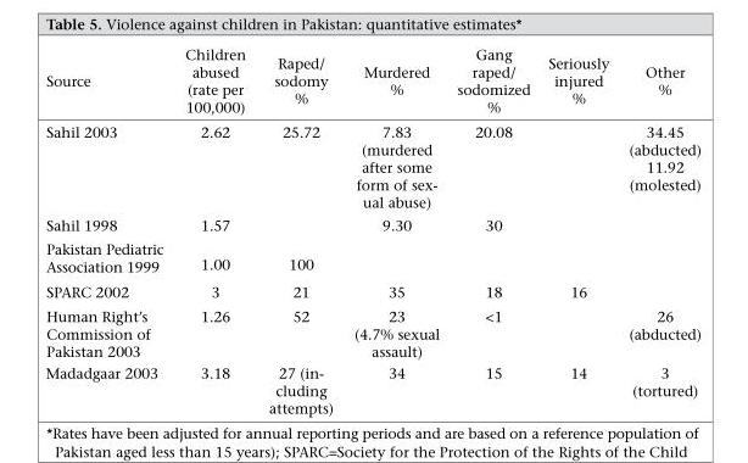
<table><thead><tr><td>Source</td><td>Children abused (rate per 100,000)</td><td>Raped/ sodomy %</td><td>Murdered %</td><td>Gang raped/ sodomized %</td><td>Seriously injured %</td><td>Other %</td></tr></thead><tbody><tr><td>Sahil 2003</td><td>2.62</td><td>25.72</td><td>7.83 (murdered after some form of sex- ual abuse)</td><td>20.08</td><td></td><td>34.45 (abducted) 11.92 (molested)</td></tr><tr><td>Sahil 1998</td><td>1.57</td><td></td><td>9.30</td><td>30</td><td></td><td></td></tr><tr><td>Pakistan Pediatric Association 1999</td><td>1.00</td><td>100</td><td></td><td></td><td></td><td></td></tr><tr><td>SPARC 2002</td><td>3</td><td>21</td><td>35</td><td>18</td><td>16</td><td></td></tr><tr><td>Human Right’s Commission of Pakistan 2003</td><td>1.26</td><td>52</td><td>23 (4.7% sexual assault)</td><td>&lt;1</td><td></td><td>26 (abducted)</td></tr><tr><td>Madadgaar 2003</td><td>3.18</td><td>27 (in- cluding attempts)</td><td>34</td><td>15</td><td>14</td><td>3 (tortured)</td></tr></tbody></table>